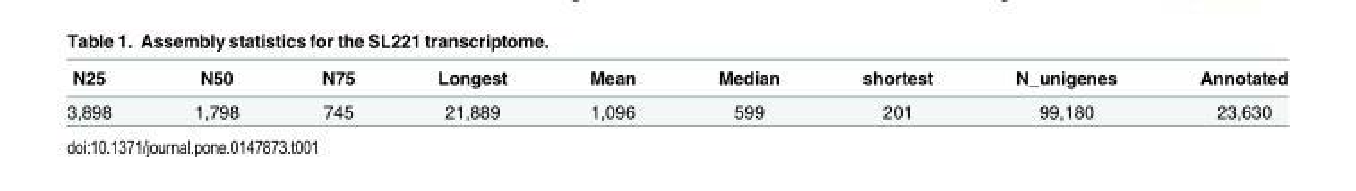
<table><thead><tr><td>N25</td><td>N50</td><td>N75</td><td>Longest</td><td>Mean</td><td>Median</td><td>shortest</td><td>N_unigenes</td><td>Annotated</td></tr></thead><tbody><tr><td>3,898</td><td>1,798</td><td>745</td><td>21,889</td><td>1,096</td><td>599</td><td>201</td><td>99,180</td><td>23,630</td></tr></tbody></table>